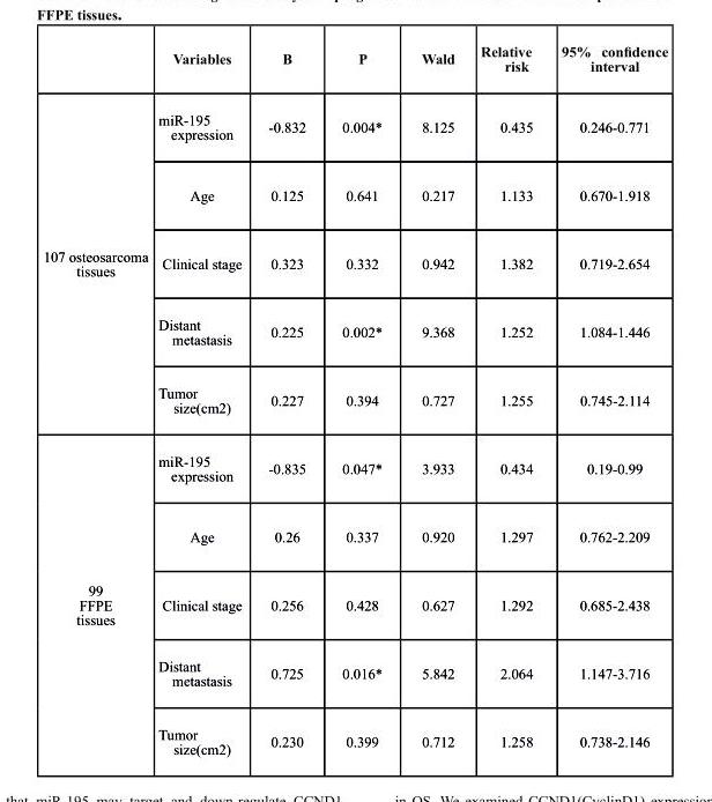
<table><thead><tr><td></td><td>Variables</td><td>b</td><td>P</td><td>Wald</td><td>Relative risk</td><td>95% confidence interval</td></tr></thead><tbody><tr><td rowspan="5">107 osteosarcoma tissues</td><td>miR-195 expression</td><td>-0.832</td><td>0.004*</td><td>8.125</td><td>0.435</td><td>0.246-0.771</td></tr><tr><td>Age</td><td>0.125</td><td>0.641</td><td>0.217</td><td>1.133</td><td>0.670-1.918</td></tr><tr><td>Clinical stage</td><td>0.323</td><td>0.332</td><td>0.942</td><td>1.382</td><td>0.719-2.654</td></tr><tr><td>Distant metastasis</td><td>0.225</td><td>0.002*</td><td>9.368</td><td>1.252</td><td>1.084-1.446</td></tr><tr><td>Tumor size(cm2)</td><td>0.227</td><td>0.394</td><td>0.727</td><td>1.255</td><td>0.745-2.114</td></tr><tr><td rowspan="5">99 FFPE tissues</td><td>miR-195 expression</td><td>-0.835</td><td>0.047*</td><td>3.933</td><td>0.434</td><td>0.19-0.99</td></tr><tr><td>Age</td><td>0.26</td><td>0.337</td><td>0.920</td><td>1.297</td><td>0.762-2.209</td></tr><tr><td>Clinical stage</td><td>0.256</td><td>0.428</td><td>0.627</td><td>1.292</td><td>0.685-2.438</td></tr><tr><td>Distant metastasis</td><td>0.725</td><td>0.016*</td><td>5.842</td><td>2.064</td><td>1.147-3.716</td></tr><tr><td>Tumor size(cm2)</td><td>0.230</td><td>0.399</td><td>0.712</td><td>1.258</td><td>0.738-2.146</td></tr></tbody></table>